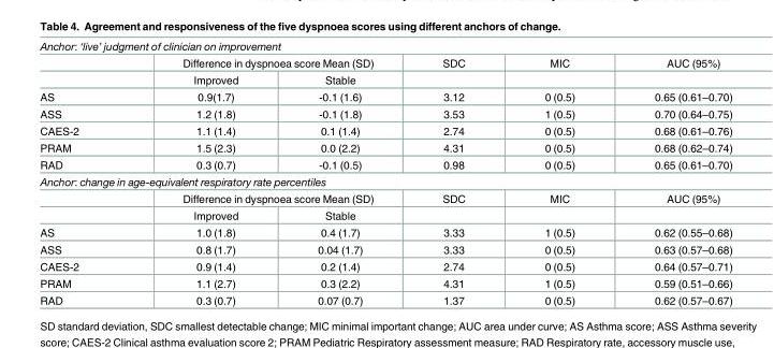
<table><tbody><tr><td colspan="6">Anchor: ‘live’ judgment of clinician on improvement</td></tr><tr><td></td><td colspan="2">Difference in dyspnoea score Mean (SD)</td><td>SDC</td><td>MIC</td><td>AUC (95%)</td></tr><tr><td></td><td>Improved</td><td>Stable</td><td></td><td></td><td></td></tr><tr><td>AS</td><td>0.9(1.7)</td><td>-0.1 (1.6)</td><td>3.12</td><td>0 (0.5)</td><td>0.65 (0.61–0.70)</td></tr><tr><td>ASS</td><td>1.2 (1.8)</td><td>-0.1 (1.8)</td><td>3.53</td><td>1 (0.5)</td><td>0.70 (0.64–0.75)</td></tr><tr><td>CAES-2</td><td>1.1 (1.4)</td><td>0.1 (1.4)</td><td>2.74</td><td>0 (0.5)</td><td>0.68 (0.61–0.76)</td></tr><tr><td>PRAM</td><td>1.5 (2.3)</td><td>0.0 (2.2)</td><td>4.31</td><td>0 (0.5)</td><td>0.68 (0.62–0.74)</td></tr><tr><td>RAD</td><td>0.3 (0.7)</td><td>-0.1 (0.5)</td><td>0.98</td><td>0 (0.5)</td><td>0.65 (0.61–0.70)</td></tr><tr><td colspan="6">Anchor: change in age-equivalent respiratory rate percentiles</td></tr><tr><td></td><td colspan="2">Difference in dyspnoea score Mean (SD)</td><td>SDC</td><td>MIC</td><td>AUC (95%)</td></tr><tr><td></td><td>Improved</td><td>Stable</td><td></td><td></td><td></td></tr><tr><td>AS</td><td>1.0 (1.8)</td><td>0.4 (1.7)</td><td>3.33</td><td>1 (0.5)</td><td>0.62 (0.55–0.68)</td></tr><tr><td>ASS</td><td>0.8 (1.7)</td><td>0.04 (1.7)</td><td>3.33</td><td>0 (0.5)</td><td>0.63 (0.57–0.68)</td></tr><tr><td>CAES-2</td><td>0.9 (1.4)</td><td>0.2 (1.4)</td><td>2.74</td><td>0 (0.5)</td><td>0.64 (0.57–0.71)</td></tr><tr><td>PRAM</td><td>1.1 (2.7)</td><td>0.3 (2.2)</td><td>4.31</td><td>1 (0.5)</td><td>0.59 (0.51–0.66)</td></tr><tr><td>RAD</td><td>0.3 (0.7)</td><td>0.07 (0.7)</td><td>1.37</td><td>0 (0.5)</td><td>0.62 (0.57–0.67)</td></tr></tbody></table>